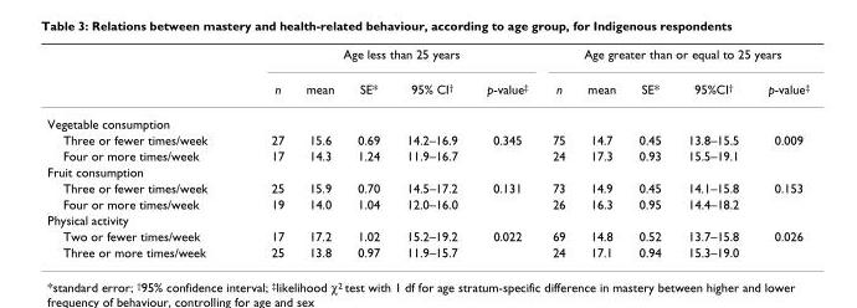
<table><thead><tr><td rowspan="2"></td><td colspan="5">Age less than 25 years</td><td colspan="5">Age greater than or equal to 25 years</td></tr><tr><td>n</td><td>mean</td><td>SE*</td><td>95% CI<sup>†</sup></td><td>p-value<sup>‡</sup></td><td>n</td><td>mean</td><td>SE*</td><td>95%CI<sup>†</sup></td><td>p-value<sup>‡</sup></td></tr></thead><tbody><tr><td colspan="11">Vegetable consumption</td></tr><tr><td>Three or fewer times/week</td><td>27</td><td>15.6</td><td>0.69</td><td>14.2–16.9</td><td>0.345</td><td>75</td><td>14.7</td><td>0.45</td><td>13.8–15.5</td><td>0.009</td></tr><tr><td>Four or more times/week</td><td>17</td><td>14.3</td><td>1.24</td><td>11.9–16.7</td><td></td><td>24</td><td>17.3</td><td>0.93</td><td>15.5–19.1</td><td></td></tr><tr><td colspan="11">Fruit consumption</td></tr><tr><td>Three or fewer times/week</td><td>25</td><td>15.9</td><td>0.70</td><td>14.5–17.2</td><td>0.131</td><td>73</td><td>14.9</td><td>0.45</td><td>14.1–15.8</td><td>0.153</td></tr><tr><td>Four or more times/week</td><td>19</td><td>14.0</td><td>1.04</td><td>12.0–16.0</td><td></td><td>26</td><td>16.3</td><td>0.95</td><td>14.4–18.2</td><td></td></tr><tr><td colspan="11">Physical activity</td></tr><tr><td>Two or fewer times/week</td><td>17</td><td>17.2</td><td>1.02</td><td>15.2–19.2</td><td>0.022</td><td>69</td><td>14.8</td><td>0.52</td><td>13.7–15.8</td><td>0.026</td></tr><tr><td>Three or more times/week</td><td>25</td><td>13.8</td><td>0.97</td><td>11.9–15.7</td><td></td><td>24</td><td>17.1</td><td>0.94</td><td>15.3–19.0</td><td></td></tr></tbody></table>